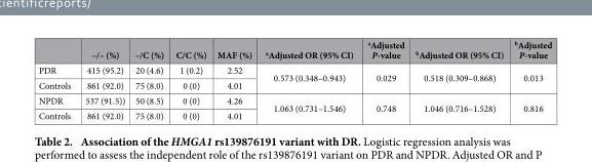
<table><thead><tr><td></td><td>–/– (%)</td><td>–/C (%)</td><td>C/C (%)</td><td>MAF (%)</td><td><sup>a</sup>Adjusted OR (95% CI)</td><td><sup>a</sup>Adjusted P-value</td><td><sup>b</sup>Adjusted OR (95% CI)</td><td><sup>b</sup>Adjusted P-value</td></tr></thead><tbody><tr><td>PDR</td><td>415 (95.2)</td><td>20 (4.6)</td><td>1 (0.2)</td><td>2.52</td><td rowspan="2">0.573 (0.348–0.943)</td><td rowspan="2">0.029</td><td rowspan="2">0.518 (0.309–0.868)</td><td rowspan="2">0.013</td></tr><tr><td>Controls</td><td>861 (92.0)</td><td>75 (8.0)</td><td>0 (0)</td><td>4.01</td></tr><tr><td>NPDR</td><td>537 (91.5))</td><td>50 (8.5)</td><td>0 (0)</td><td>4.26</td><td rowspan="2">1.063 (0.731–1.546)</td><td rowspan="2">0.748</td><td rowspan="2">1.046 (0.716–1.528)</td><td rowspan="2">0.816</td></tr><tr><td>Controls</td><td>861 (92.0)</td><td>75 (8.0)</td><td>0 (0)</td><td>4.01</td></tr></tbody></table>